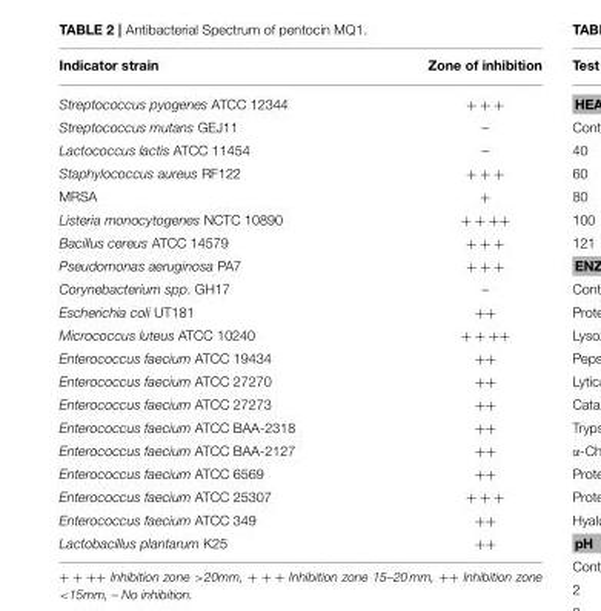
<table><thead><tr><td>Indicator strain</td><td>Zone of inhibition</td></tr></thead><tbody><tr><td>Streptococcus pyogenes ATCC 12344</td><td>+ + +</td></tr><tr><td>Streptococcus mutans GEJ11</td><td>–</td></tr><tr><td>Lactococcus lactis ATCC 11454</td><td>–</td></tr><tr><td>Staphylococcus aureus RF122</td><td>+ + +</td></tr><tr><td>MRSA</td><td>+</td></tr><tr><td>Listeria monocytogenes NCTC 10890</td><td>+ + ++</td></tr><tr><td>Bacillus cereus ATCC 14579</td><td>+ + +</td></tr><tr><td>Pseudomonas aeruginosa PA7</td><td>+ + +</td></tr><tr><td>Corynebacterium spp. GH17</td><td>–</td></tr><tr><td>Escherichia coli UT181</td><td>++</td></tr><tr><td>Micrococcus luteus ATCC 10240</td><td>+ + ++</td></tr><tr><td>Enterococcus faecium ATCC 19434</td><td>++</td></tr><tr><td>Enterococcus faecium ATCC 27270</td><td>++</td></tr><tr><td>Enterococcus faecium ATCC 27273</td><td>++</td></tr><tr><td>Enterococcus faecium ATCC BAA-2318</td><td>++</td></tr><tr><td>Enterococcus faecium ATCC BAA-2127</td><td>++</td></tr><tr><td>Enterococcus faecium ATCC 6569</td><td>++</td></tr><tr><td>Enterococcus faecium ATCC 25307</td><td>+ + +</td></tr><tr><td>Enterococcus faecium ATCC 349</td><td>++</td></tr><tr><td>Lactobacillus plantarum K25</td><td>++</td></tr></tbody></table>